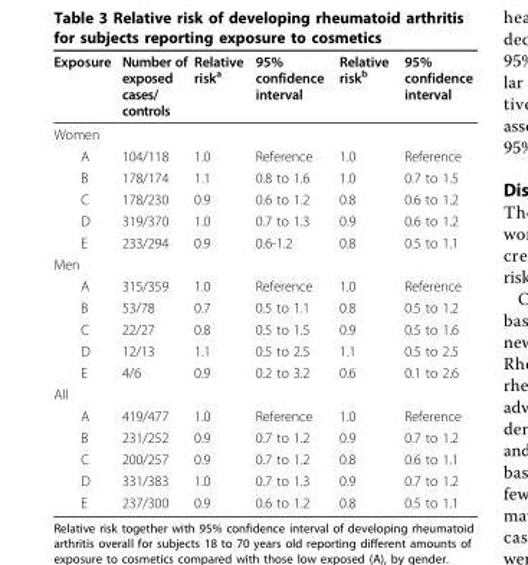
<table><thead><tr><td>Exposure</td><td>Number of exposed cases/ controls</td><td>Relative risk<sup>a</sup></td><td>95% confidence interval</td><td>Relative risk<sup>b</sup></td><td>95% confidence interval</td></tr></thead><tbody><tr><td colspan="6">Women</td></tr><tr><td>A</td><td>104/118</td><td>1.0</td><td>Reference</td><td>1.0</td><td>Reference</td></tr><tr><td>B</td><td>178/174</td><td>1.1</td><td>0.8 to 1.6</td><td>1.0</td><td>0.7 to 1.5</td></tr><tr><td>C</td><td>178/230</td><td>0.9</td><td>0.6 to 1.2</td><td>0.8</td><td>0.6 to 1.2</td></tr><tr><td>D</td><td>319/370</td><td>1.0</td><td>0.7 to 1.3</td><td>0.9</td><td>0.6 to 1.2</td></tr><tr><td>E</td><td>233/294</td><td>0.9</td><td>0.6-1.2</td><td>0.8</td><td>0.5 to 1.1</td></tr><tr><td colspan="6">Men</td></tr><tr><td>A</td><td>315/359</td><td>1.0</td><td>Reference</td><td>1.0</td><td>Reference</td></tr><tr><td>B</td><td>53/78</td><td>0.7</td><td>0.5 to 1.1</td><td>0.8</td><td>0.5 to 1.2</td></tr><tr><td>C</td><td>22/27</td><td>0.8</td><td>0.5 to 1.5</td><td>0.9</td><td>0.5 to 1.6</td></tr><tr><td>D</td><td>12/13</td><td>1.1</td><td>0.5 to 2.5</td><td>1.1</td><td>0.5 to 2.5</td></tr><tr><td>E</td><td>4/6</td><td>0.9</td><td>0.2 to 3.2</td><td>0.6</td><td>0.1 to 2.6</td></tr><tr><td colspan="6">All</td></tr><tr><td>A</td><td>419/477</td><td>1.0</td><td>Reference</td><td>1.0</td><td>Reference</td></tr><tr><td>B</td><td>231/252</td><td>0.9</td><td>0.7 to 1.2</td><td>0.9</td><td>0.7 to 1.2</td></tr><tr><td>C</td><td>200/257</td><td>0.9</td><td>0.7 to 1.2</td><td>0.8</td><td>0.6 to 1.1</td></tr><tr><td>D</td><td>331/383</td><td>1.0</td><td>0.7 to 1.3</td><td>0.9</td><td>0.7 to 1.2</td></tr><tr><td>E</td><td>237/300</td><td>0.9</td><td>0.6 to 1.2</td><td>0.8</td><td>0.5 to 1.1</td></tr></tbody></table>